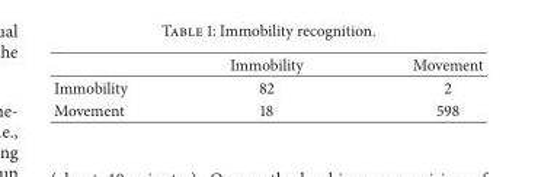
<table><thead><tr><td></td><td>Immobility</td><td>Movement</td></tr></thead><tbody><tr><td>Immobility</td><td>82</td><td>2</td></tr><tr><td>Movement</td><td>18</td><td>598</td></tr></tbody></table>